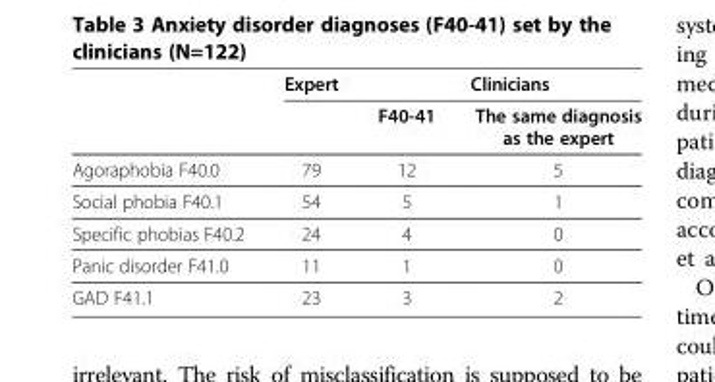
<table><thead><tr><td rowspan="2"></td><td rowspan="2">Expert</td><td colspan="2">Clinicians</td></tr><tr><td>F40-41</td><td>The same diagnosis as the expert</td></tr></thead><tbody><tr><td>Agoraphobia F40.0</td><td>79</td><td>12</td><td>5</td></tr><tr><td>Social phobia F40.1</td><td>54</td><td>5</td><td>1</td></tr><tr><td>Specific phobias F40.2</td><td>24</td><td>4</td><td>0</td></tr><tr><td>Panic disorder F41.0</td><td>11</td><td>1</td><td>0</td></tr><tr><td>GAD F41.1</td><td>23</td><td>3</td><td>2</td></tr></tbody></table>